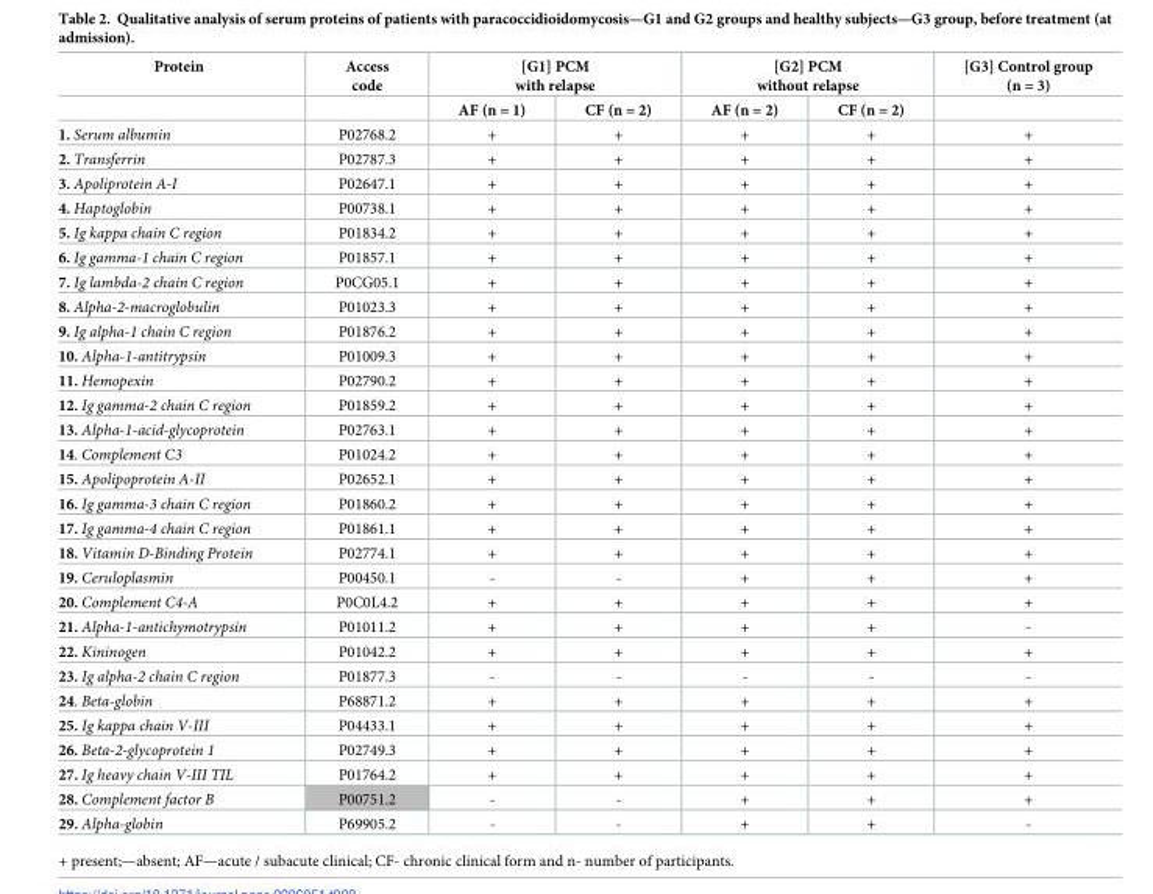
<table><thead><tr><td rowspan="2">Protein</td><td rowspan="2">Access code</td><td colspan="2">[G1] PCM with relapse</td><td colspan="2">[G2] PCM without relapse</td><td rowspan="2">[G3] Control group (n = 3)</td></tr><tr><td>AF (n = 1)</td><td>CF (n = 2)</td><td>AF (n = 2)</td><td>CF (n = 2)</td></tr></thead><tbody><tr><td>1. Serum albumin</td><td>P02768.2</td><td>+</td><td>+</td><td>+</td><td>+</td><td>+</td></tr><tr><td>2. Transferrin</td><td>P02787.3</td><td>+</td><td>+</td><td>+</td><td>+</td><td>+</td></tr><tr><td>3. Apoliprotein A-I</td><td>P02647.1</td><td>+</td><td>+</td><td>+</td><td>+</td><td>+</td></tr><tr><td>4. Haptoglobin</td><td>P00738.1</td><td>+</td><td>+</td><td>+</td><td>+</td><td>+</td></tr><tr><td>5. Ig kappa chain C region</td><td>P01834.2</td><td>+</td><td>+</td><td>+</td><td>+</td><td>+</td></tr><tr><td>6. Ig gamma-1 chain C region</td><td>P01857.1</td><td>+</td><td>+</td><td>+</td><td>+</td><td>+</td></tr><tr><td>7. Ig lambda-2 chain C region</td><td>P0CG05.1</td><td>+</td><td>+</td><td>+</td><td>+</td><td>+</td></tr><tr><td>8. Alpha-2-macroglobulin</td><td>P01023.3</td><td>+</td><td>+</td><td>+</td><td>+</td><td>+</td></tr><tr><td>9. Ig alpha-1 chain C region</td><td>P01876.2</td><td>+</td><td>+</td><td>+</td><td>+</td><td>+</td></tr><tr><td>10. Alpha-1-antitrypsin</td><td>P01009.3</td><td>+</td><td>+</td><td>+</td><td>+</td><td>+</td></tr><tr><td>11. Hemopexin</td><td>P02790.2</td><td>+</td><td>+</td><td>+</td><td>+</td><td>+</td></tr><tr><td>12. Ig gamma-2 chain C region</td><td>P01859.2</td><td>+</td><td>+</td><td>+</td><td>+</td><td>+</td></tr><tr><td>13. Alpha-1-acid-glycoprotein</td><td>P02763.1</td><td>+</td><td>+</td><td>+</td><td>+</td><td>+</td></tr><tr><td>14. Complement C3</td><td>P01024.2</td><td>+</td><td>+</td><td>+</td><td>+</td><td>+</td></tr><tr><td>15. Apolipoprotein A-II</td><td>P02652.1</td><td>+</td><td>+</td><td>+</td><td>+</td><td>+</td></tr><tr><td>16. Ig gamma-3 chain C region</td><td>P01860.2</td><td>+</td><td>+</td><td>+</td><td>+</td><td>+</td></tr><tr><td>17. Ig gamma-4 chain C region</td><td>P01861.1</td><td>+</td><td>+</td><td>+</td><td>+</td><td>+</td></tr><tr><td>18. Vitamin D-Binding Protein</td><td>P02774.1</td><td>+</td><td>+</td><td>+</td><td>+</td><td>+</td></tr><tr><td>19. Ceruloplasmin</td><td>P00450.1</td><td>-</td><td>-</td><td>+</td><td>+</td><td>+</td></tr><tr><td>20. Complement C4-A</td><td>P0C0L4.2</td><td>+</td><td>+</td><td>+</td><td>+</td><td>+</td></tr><tr><td>21. Alpha-1-antichymotrypsin</td><td>P01011.2</td><td>+</td><td>+</td><td>+</td><td>+</td><td>-</td></tr><tr><td>22. Kininogen</td><td>P01042.2</td><td>+</td><td>+</td><td>+</td><td>+</td><td>+</td></tr><tr><td>23. Ig alpha-2 chain C region</td><td>P01877.3</td><td>-</td><td>-</td><td>-</td><td>-</td><td>-</td></tr><tr><td>24. Beta-globin</td><td>P68871.2</td><td>+</td><td>+</td><td>+</td><td>+</td><td>+</td></tr><tr><td>25. Ig kappa chain V-III</td><td>P04433.1</td><td>+</td><td>+</td><td>+</td><td>+</td><td>+</td></tr><tr><td>26. Beta-2-glycoprotein 1</td><td>P02749.3</td><td>+</td><td>+</td><td>+</td><td>+</td><td>+</td></tr><tr><td>27. Ig heavy chain V-III TIL</td><td>P01764.2</td><td>+</td><td>+</td><td>+</td><td>+</td><td>+</td></tr><tr><td>28. Complement factor B</td><td>P00751.2</td><td>-</td><td>-</td><td>+</td><td>+</td><td>+</td></tr><tr><td>29. Alpha-globin</td><td>P69905.2</td><td>-</td><td>-</td><td>+</td><td>+</td><td>-</td></tr></tbody></table>